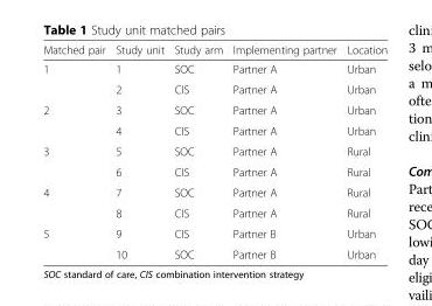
<table><thead><tr><td>Matched pair</td><td>Study unit</td><td>Study arm</td><td>Implementing partner</td><td>Location</td></tr></thead><tbody><tr><td rowspan="2">1</td><td>1</td><td>SOC</td><td>Partner A</td><td>Urban</td></tr><tr><td>2</td><td>CIS</td><td>Partner A</td><td>Urban</td></tr><tr><td rowspan="2">2</td><td>3</td><td>SOC</td><td>Partner A</td><td>Urban</td></tr><tr><td>4</td><td>CIS</td><td>Partner A</td><td>Urban</td></tr><tr><td rowspan="2">3</td><td>5</td><td>SOC</td><td>Partner A</td><td>Rural</td></tr><tr><td>6</td><td>CIS</td><td>Partner A</td><td>Rural</td></tr><tr><td rowspan="2">4</td><td>7</td><td>SOC</td><td>Partner A</td><td>Rural</td></tr><tr><td>8</td><td>CIS</td><td>Partner A</td><td>Rural</td></tr><tr><td rowspan="2">5</td><td>9</td><td>CIS</td><td>Partner B</td><td>Urban</td></tr><tr><td>10</td><td>SOC</td><td>Partner B</td><td>Urban</td></tr></tbody></table>